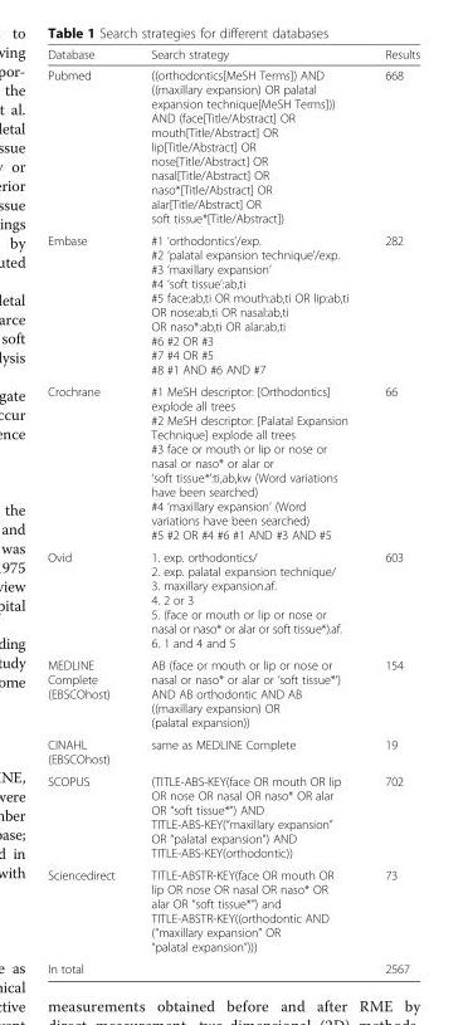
<table><thead><tr><td>Database</td><td>Search strategy</td><td>Results</td></tr></thead><tbody><tr><td>Pubmed</td><td>((orthodontics[MeSH Terms]) AND ((maxillary expansion) OR palatal expansion technique[MeSH Terms])) AND (face[Title/Abstract] OR mouth[Title/Abstract] OR lip[Title/Abstract] OR nose[Title/Abstract] OR nasal[Title/Abstract] OR naso*[Title/Abstract] OR alar[Title/Abstract] OR soft tissue*[Title/Abstract])</td><td>668</td></tr><tr><td>Embase</td><td>#1 ‘orthodontics’/exp. #2 ‘palatal expansion technique’/exp. #3 ‘maxillary expansion’ #4 ‘soft tissue’:ab,ti #5 face:ab,ti OR mouth:ab,ti OR lip:ab,ti OR nose:ab,ti OR nasal:ab,ti OR naso*:ab,ti OR alar:ab,ti #6 #2 OR #3 #7 #4 OR #5 #8 #1 AND #6 AND #7</td><td>282</td></tr><tr><td>Crochrane</td><td>#1 MeSH descriptor: [Orthodontics] explode all trees #2 MeSH descriptor: [Palatal Expansion Technique] explode all trees #3 face or mouth or lip or nose or nasal or naso* or alar or ‘soft tissue*’:ti,ab,kw (Word variations have been searched) #4 ‘maxillary expansion’ (Word variations have been searched) #5 #2 OR #4 #6 #1 AND #3 AND #5</td><td>66</td></tr><tr><td>Ovid</td><td>1. exp. orthodontics/ 2. exp. palatal expansion technique/ 3. maxillary expansion.af. 4. 2 or 3 5. (face or mouth or lip or nose or nasal or naso* or alar or soft tissue*).af. 6. 1 and 4 and 5</td><td>603</td></tr><tr><td>MEDLINE Complete (EBSCOhost)</td><td>AB (face or mouth or lip or nose or nasal or naso* or alar or ‘soft tissue*’) AND AB orthodontic AND AB ((maxillary expansion) OR (palatal expansion))</td><td>154</td></tr><tr><td>CINAHL (EBSCOhost)</td><td>same as MEDLINE Complete</td><td>19</td></tr><tr><td>SCOPUS</td><td>(TITLE-ABS-KEY(face OR mouth OR lip OR nose OR nasal OR naso* OR alar OR “soft tissue*”) AND TITLE-ABS-KEY(“maxillary expansion” OR “palatal expansion”) AND TITLE-ABS-KEY(orthodontic))</td><td>702</td></tr><tr><td>Sciencedirect</td><td>TITLE-ABSTR-KEY(face OR mouth OR lip OR nose OR nasal OR naso* OR alar OR “soft tissue*”) and TITLE-ABSTR-KEY((orthodontic AND (“maxillary expansion” OR “palatal expansion”)))</td><td>73</td></tr><tr><td colspan="2">In total</td><td>2567</td></tr></tbody></table>